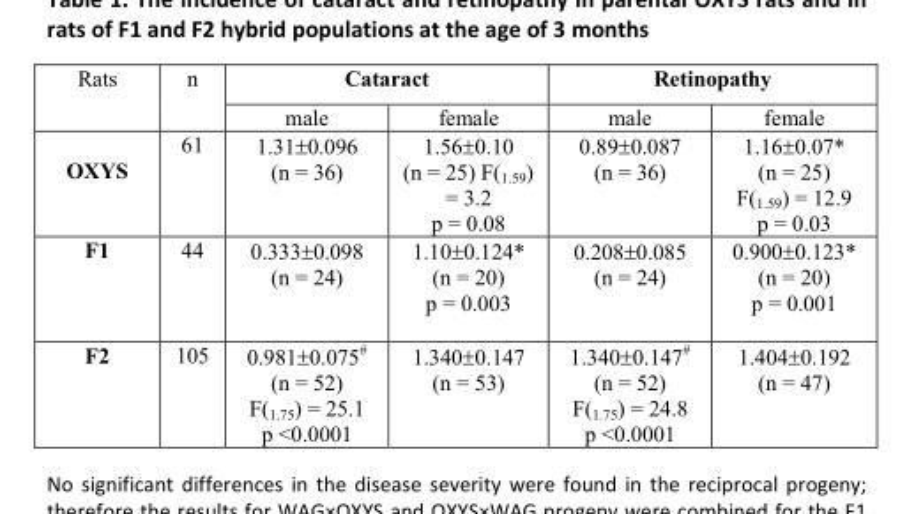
<table><thead><tr><td rowspan="2">Rats</td><td rowspan="2">n</td><td colspan="2">Cataract</td><td colspan="2">Retinopathy</td></tr><tr><td>male</td><td>female</td><td>male</td><td>female</td></tr></thead><tbody><tr><td>OXYS</td><td>61</td><td>1.31±0.096 (n = 36)</td><td>1.56±0.10 (n = 25) F(<sub>1.59</sub>) = 3.2 p = 0.08</td><td>0.89±0.087 (n = 36)</td><td>1.16±0.07* (n = 25) F(<sub>1.59</sub>) = 12.9 p = 0.03</td></tr><tr><td>F1</td><td>44</td><td>0.333±0.098 (n = 24)</td><td>1.10±0.124* (n = 20) p = 0.003</td><td>0.208±0.085 (n = 24)</td><td>0.900±0.123* (n = 20) p = 0.001</td></tr><tr><td>F2</td><td>105</td><td>0.981±0.075<sup>#</sup> (n = 52) F(<sub>1.75</sub>) = 25.1 p &lt;0.0001</td><td>1.340±0.147 (n = 53)</td><td>1.340±0.147<sup>#</sup> (n = 52) F(<sub>1.75</sub>) = 24.8 p &lt;0.0001</td><td>1.404±0.192 (n = 47)</td></tr></tbody></table>